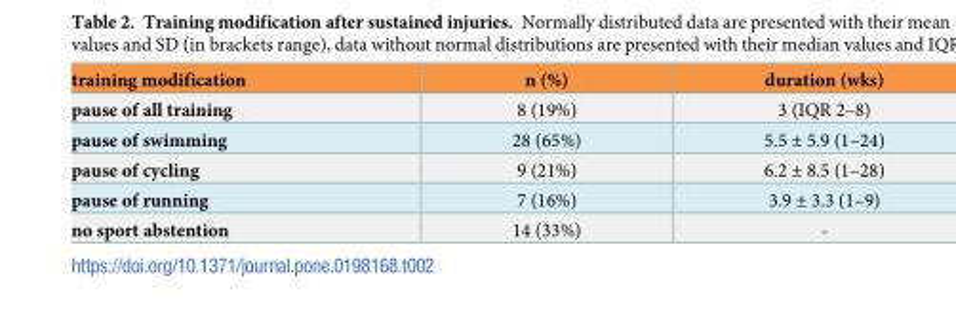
<table><thead><tr><td>training modification</td><td>n (%)</td><td>duration (wks)</td></tr></thead><tbody><tr><td>pause of all training</td><td>8 (19%)</td><td>3 (IQR 2–8)</td></tr><tr><td>pause of swimming</td><td>28 (65%)</td><td>5.5 ± 5.9 (1–24)</td></tr><tr><td>pause of cycling</td><td>9 (21%)</td><td>6.2 ± 8.5 (1–28)</td></tr><tr><td>pause of running</td><td>7 (16%)</td><td>3.9 ± 3.3 (1–9)</td></tr><tr><td>no sport abstention</td><td>14 (33%)</td><td>-</td></tr></tbody></table>